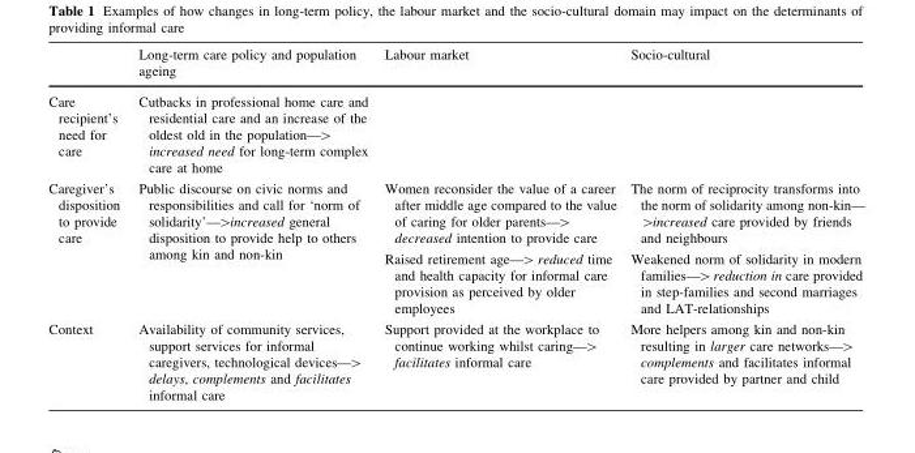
<table><thead><tr><td></td><td>Long-term care policy and population ageing</td><td>Labour market</td><td>Socio-cultural</td></tr></thead><tbody><tr><td>Care recipient’s need for care</td><td>Cutbacks in professional home care and residential care and an increase of the oldest old in the population—&gt; increased need for long-term complex care at home</td><td></td><td></td></tr><tr><td>Caregiver’s disposition to provide care</td><td>Public discourse on civic norms and responsibilities and call for ‘norm of solidarity’—&gt;increased general disposition to provide help to others among kin and non-kin</td><td>Women reconsider the value of a career after middle age compared to the value of caring for older parents—&gt; decreased intention to provide care Raised retirement age—&gt; reduced time and health capacity for informal care provision as perceived by older employees</td><td>The norm of reciprocity transforms into the norm of solidarity among non-kin— &gt;increased care provided by friends and neighbours Weakened norm of solidarity in modern families—&gt;reduction in care provided in step-families and second marriages and LAT-relationships</td></tr><tr><td>Context</td><td>Availability of community services, support services for informal caregivers, technological devices—&gt; delays, complements and facilitates informal care</td><td>Support provided at the workplace to continue working whilst caring—&gt; facilitates informal care</td><td>More helpers among kin and non-kin resulting in larger care networks—&gt; complements and facilitates informal care provided by partner and child</td></tr></tbody></table>